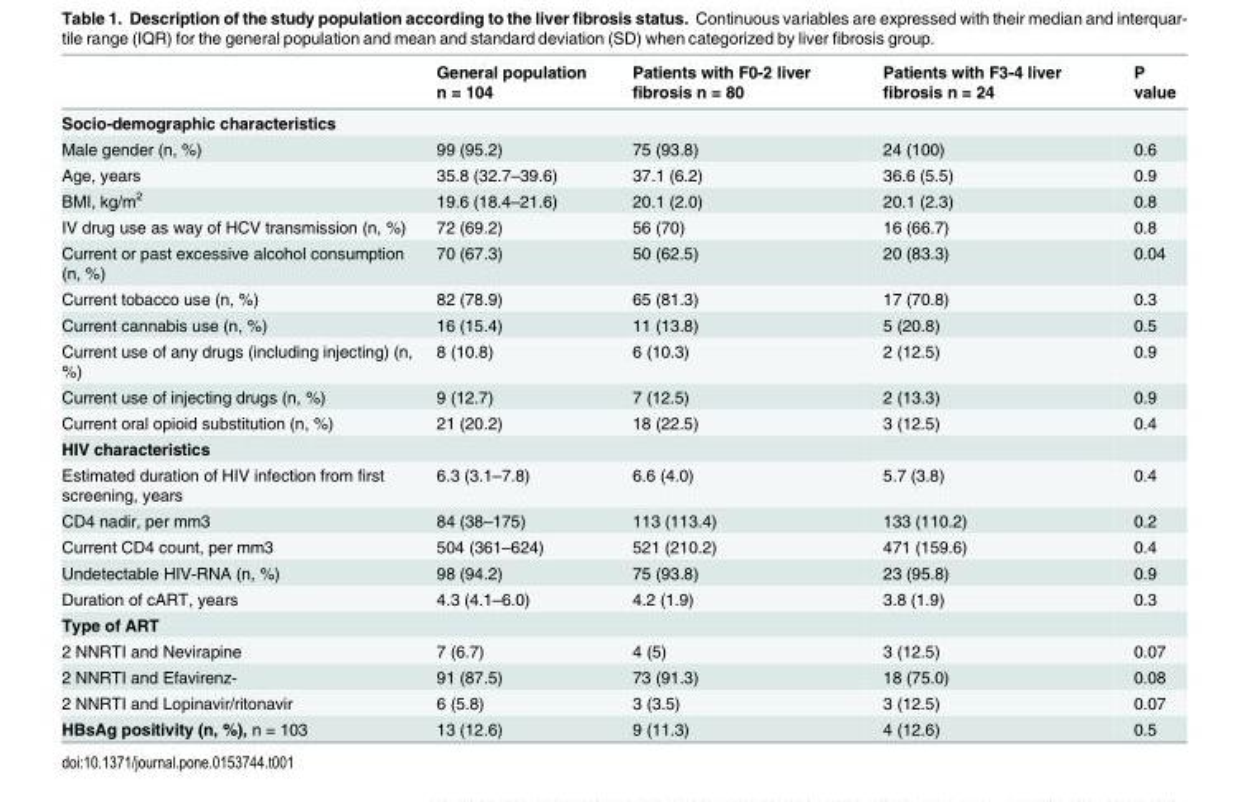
<table><thead><tr><td></td><td>General population n = 104</td><td>Patients with F0-2 liver fibrosis n = 80</td><td>Patients with F3-4 liver fibrosis n = 24</td><td>P value</td></tr></thead><tbody><tr><td colspan="5">Socio-demographic characteristics</td></tr><tr><td>Male gender (n, %)</td><td>99 (95.2)</td><td>75 (93.8)</td><td>24 (100)</td><td>0.6</td></tr><tr><td>Age, years</td><td>35.8 (32.7–39.6)</td><td>37.1 (6.2)</td><td>36.6 (5.5)</td><td>0.9</td></tr><tr><td>BMI, kg/m<sup>2</sup></td><td>19.6 (18.4–21.6)</td><td>20.1 (2.0)</td><td>20.1 (2.3)</td><td>0.8</td></tr><tr><td>IV drug use as way of HCV transmission (n, %)</td><td>72 (69.2)</td><td>56 (70)</td><td>16 (66.7)</td><td>0.8</td></tr><tr><td>Current or past excessive alcohol consumption (n, %)</td><td>70 (67.3)</td><td>50 (62.5)</td><td>20 (83.3)</td><td>0.04</td></tr><tr><td>Current tobacco use (n, %)</td><td>82 (78.9)</td><td>65 (81.3)</td><td>17 (70.8)</td><td>0.3</td></tr><tr><td>Current cannabis use (n, %)</td><td>16 (15.4)</td><td>11 (13.8)</td><td>5 (20.8)</td><td>0.5</td></tr><tr><td>Current use of any drugs (including injecting) (n, %)</td><td>8 (10.8)</td><td>6 (10.3)</td><td>2 (12.5)</td><td>0.9</td></tr><tr><td>Current use of injecting drugs (n, %)</td><td>9 (12.7)</td><td>7 (12.5)</td><td>2 (13.3)</td><td>0.9</td></tr><tr><td>Current oral opioid substitution (n, %)</td><td>21 (20.2)</td><td>18 (22.5)</td><td>3 (12.5)</td><td>0.4</td></tr><tr><td colspan="5">HIV characteristics</td></tr><tr><td>Estimated duration of HIV infection from first screening, years</td><td>6.3 (3.1–7.8)</td><td>6.6 (4.0)</td><td>5.7 (3.8)</td><td>0.4</td></tr><tr><td>CD4 nadir, per mm3</td><td>84 (38–175)</td><td>113 (113.4)</td><td>133 (110.2)</td><td>0.2</td></tr><tr><td>Current CD4 count, per mm3</td><td>504 (361–624)</td><td>521 (210.2)</td><td>471 (159.6)</td><td>0.4</td></tr><tr><td>Undetectable HIV-RNA (n, %)</td><td>98 (94.2)</td><td>75 (93.8)</td><td>23 (95.8)</td><td>0.9</td></tr><tr><td>Duration of cART, years</td><td>4.3 (4.1–6.0)</td><td>4.2 (1.9)</td><td>3.8 (1.9)</td><td>0.3</td></tr><tr><td colspan="5">Type of ART</td></tr><tr><td>2 NNRTI and Nevirapine</td><td>7 (6.7)</td><td>4 (5)</td><td>3 (12.5)</td><td>0.07</td></tr><tr><td>2 NNRTI and Efavirenz-</td><td>91 (87.5)</td><td>73 (91.3)</td><td>18 (75.0)</td><td>0.08</td></tr><tr><td>2 NNRTI and Lopinavir/ritonavir</td><td>6 (5.8)</td><td>3 (3.5)</td><td>3 (12.5)</td><td>0.07</td></tr><tr><td>HBsAg positivity (n, %), n = 103</td><td>13 (12.6)</td><td>9 (11.3)</td><td>4 (12.6)</td><td>0.5</td></tr></tbody></table>